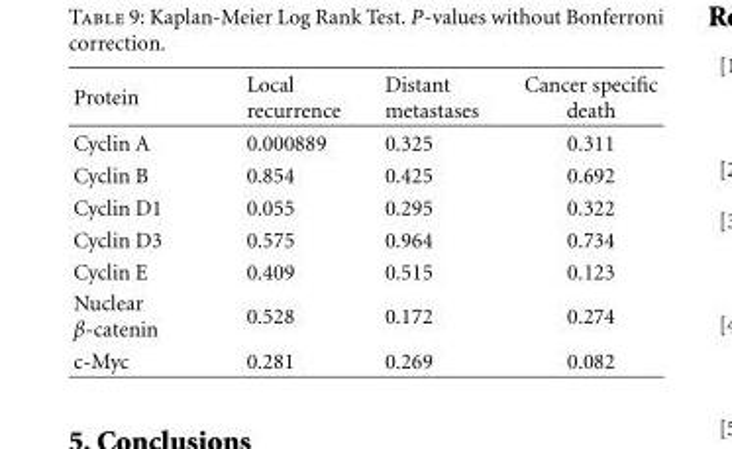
<table><thead><tr><td>Protein</td><td>Local recurrence</td><td>Distant metastases</td><td>Cancer specific death</td></tr></thead><tbody><tr><td>Cyclin A</td><td>0.000889</td><td>0.325</td><td>0.311</td></tr><tr><td>Cyclin B</td><td>0.854</td><td>0.425</td><td>0.692</td></tr><tr><td>Cyclin D1</td><td>0.055</td><td>0.295</td><td>0.322</td></tr><tr><td>Cyclin D3</td><td>0.575</td><td>0.964</td><td>0.734</td></tr><tr><td>Cyclin E</td><td>0.409</td><td>0.515</td><td>0.123</td></tr><tr><td>Nuclear β-catenin</td><td>0.528</td><td>0.172</td><td>0.274</td></tr><tr><td>c-Myc</td><td>0.281</td><td>0.269</td><td>0.082</td></tr></tbody></table>